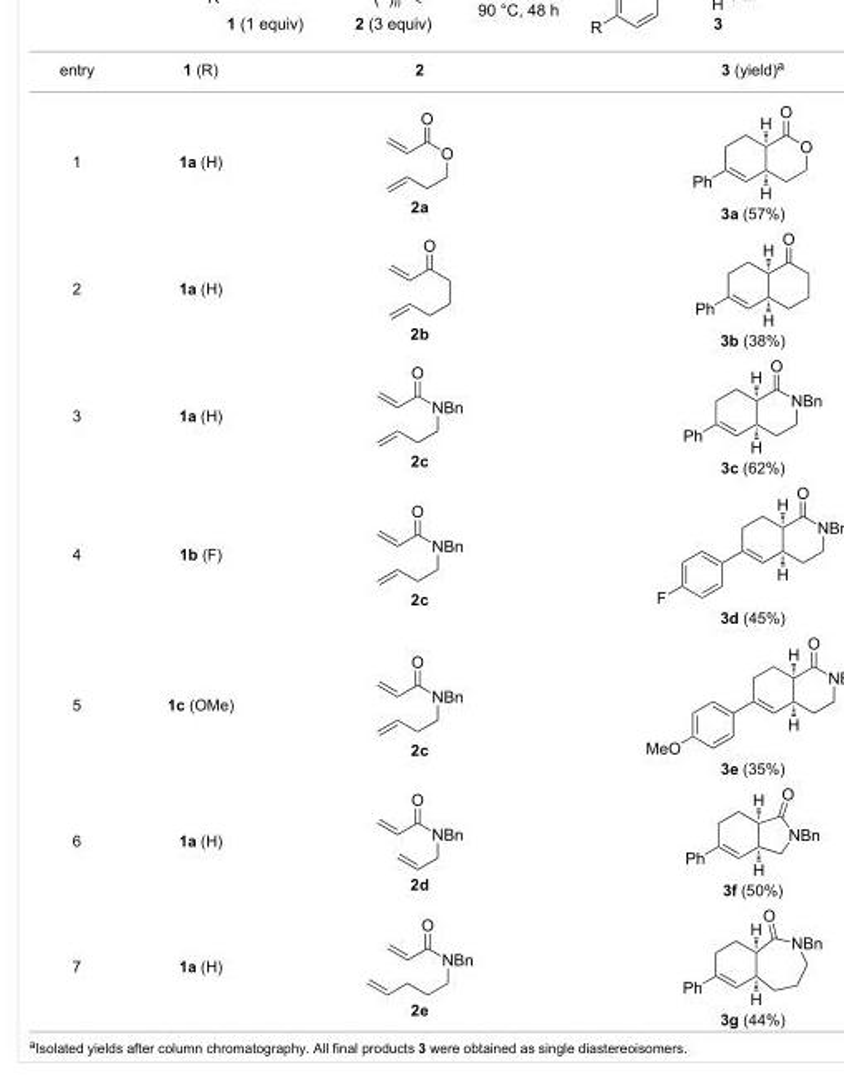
<table><tbody><tr><td>entry</td><td>1 (R)</td><td>2</td><td>3 (yield)<sup>a</sup></td></tr><tr><td>1</td><td>1a (H)</td><td>2a</td><td>3a (57%)</td></tr><tr><td>2</td><td>1a (H)</td><td>2b</td><td>3b (38%)</td></tr><tr><td>3</td><td>1a (H)</td><td>2c</td><td>3c (62%)</td></tr><tr><td>4</td><td>1b (F)</td><td>2c</td><td>3d (45%)</td></tr><tr><td>5</td><td>1c (OMe)</td><td>2c</td><td>3e (35%)</td></tr><tr><td>6</td><td>1a (H)</td><td>2d</td><td>3f (50%)</td></tr><tr><td>7</td><td>1a (H)</td><td>2e</td><td>3g (44%)</td></tr></tbody></table>